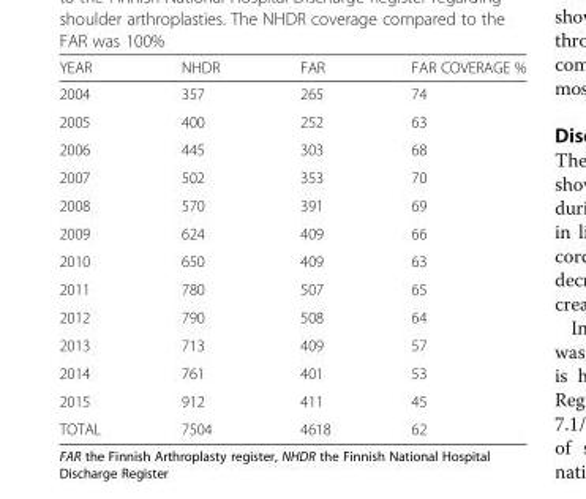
<table><thead><tr><td>YEAR</td><td>NHDR</td><td>FAR</td><td>FAR COVERAGE %</td></tr></thead><tbody><tr><td>2004</td><td>357</td><td>265</td><td>74</td></tr><tr><td>2005</td><td>400</td><td>252</td><td>63</td></tr><tr><td>2006</td><td>445</td><td>303</td><td>68</td></tr><tr><td>2007</td><td>502</td><td>353</td><td>70</td></tr><tr><td>2008</td><td>570</td><td>391</td><td>69</td></tr><tr><td>2009</td><td>624</td><td>409</td><td>66</td></tr><tr><td>2010</td><td>650</td><td>409</td><td>63</td></tr><tr><td>2011</td><td>780</td><td>507</td><td>65</td></tr><tr><td>2012</td><td>790</td><td>508</td><td>64</td></tr><tr><td>2013</td><td>713</td><td>409</td><td>57</td></tr><tr><td>2014</td><td>761</td><td>401</td><td>53</td></tr><tr><td>2015</td><td>912</td><td>411</td><td>45</td></tr><tr><td>TOTAL</td><td>7504</td><td>4618</td><td>62</td></tr></tbody></table>